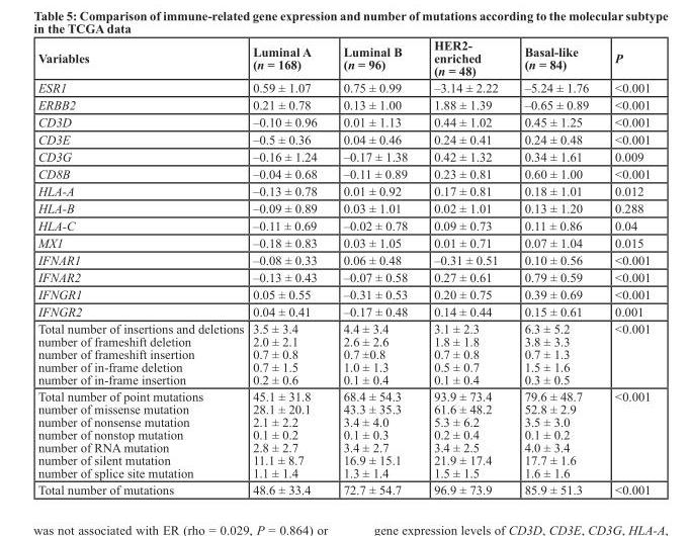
<table><thead><tr><td>Variables</td><td>Luminal A (n = 168)</td><td>Luminal B (n = 96)</td><td>HER2- enriched (n = 48)</td><td>Basal-like (n = 84)</td><td>P</td></tr></thead><tbody><tr><td>ESR1</td><td>0.59 ± 1.07</td><td>0.75 ± 0.99</td><td>–3.14 ± 2.22</td><td>–5.24 ± 1.76</td><td>&lt;0.001</td></tr><tr><td>ERBB2</td><td>0.21 ± 0.78</td><td>0.13 ± 1.00</td><td>1.88 ± 1.39</td><td>–0.65 ± 0.89</td><td>&lt;0.001</td></tr><tr><td>CD3D</td><td>–0.10 ± 0.96</td><td>0.01 ± 1.13</td><td>0.44 ± 1.02</td><td>0.45 ± 1.25</td><td>&lt;0.001</td></tr><tr><td>CD3E</td><td>–0.5 ± 0.36</td><td>0.04 ± 0.46</td><td>0.24 ± 0.41</td><td>0.24 ± 0.48</td><td>&lt;0.001</td></tr><tr><td>CD3G</td><td>–0.16 ± 1.24</td><td>–0.17 ± 1.38</td><td>0.42 ± 1.32</td><td>0.34 ± 1.61</td><td>0.009</td></tr><tr><td>CD8B</td><td>–0.04 ± 0.68</td><td>–0.11 ± 0.89</td><td>0.23 ± 0.81</td><td>0.60 ± 1.00</td><td>&lt;0.001</td></tr><tr><td>HLA-A</td><td>–0.13 ± 0.78</td><td>0.01 ± 0.92</td><td>0.17 ± 0.81</td><td>0.18 ± 1.01</td><td>0.012</td></tr><tr><td>HLA-B</td><td>–0.09 ± 0.89</td><td>0.03 ± 1.01</td><td>0.02 ± 1.01</td><td>0.13 ± 1.20</td><td>0.288</td></tr><tr><td>HLA-C</td><td>–0.11 ± 0.69</td><td>–0.02 ± 0.78</td><td>0.09 ± 0.73</td><td>0.11 ± 0.86</td><td>0.04</td></tr><tr><td>MX1</td><td>–0.18 ± 0.83</td><td>0.03 ± 1.05</td><td>0.01 ± 0.71</td><td>0.07 ± 1.04</td><td>0.015</td></tr><tr><td>IFNAR1</td><td>–0.08 ± 0.33</td><td>0.06 ± 0.48</td><td>–0.31 ± 0.51</td><td>0.10 ± 0.56</td><td>&lt;0.001</td></tr><tr><td>IFNAR2</td><td>–0.13 ± 0.43</td><td>–0.07 ± 0.58</td><td>0.27 ± 0.61</td><td>0.79 ± 0.59</td><td>&lt;0.001</td></tr><tr><td>IFNGR1</td><td>0.05 ± 0.55</td><td>–0.31 ± 0.53</td><td>0.20 ± 0.75</td><td>0.39 ± 0.69</td><td>&lt;0.001</td></tr><tr><td>IFNGR2</td><td>0.04 ± 0.41</td><td>–0.17 ± 0.48</td><td>0.14 ± 0.44</td><td>0.15 ± 0.61</td><td>0.001</td></tr><tr><td>Total number of insertions and deletions number of frameshift deletion number of frameshift insertion number of in-frame deletion number of in-frame insertion</td><td>3.5 ± 3.4 2.0 ± 2.1 0.7 ± 0.8 0.7 ± 1.5 0.2 ± 0.6</td><td>4.4 ± 3.4 2.6 ± 2.6 0.7 ±0.8 1.0 ± 1.3 0.1 ± 0.4</td><td>3.1 ± 2.3 1.8 ± 1.8 0.7 ± 0.8 0.5 ± 0.7 0.1 ± 0.4</td><td>6.3 ± 5.2 3.8 ± 3.3 0.7 ± 1.3 1.5 ± 1.6 0.3 ± 0.5</td><td>&lt;0.001</td></tr><tr><td>Total number of point mutations number of missense mutation number of nonsense mutation number of nonstop mutation number of RNA mutation number of silent mutation number of splice site mutation</td><td>45.1 ± 31.8 28.1 ± 20.1 2.1 ± 2.2 0.1 ± 0.2 2.8 ± 2.7 11.1 ± 8.7 1.1 ± 1.4</td><td>68.4 ± 54.3 43.3 ± 35.3 3.4 ± 4.0 0.1 ± 0.3 3.4 ± 2.7 16.9 ± 15.1 1.3 ± 1.4</td><td>93.9 ± 73.4 61.6 ± 48.2 5.3 ± 6.2 0.2 ± 0.4 3.4 ± 2.5 21.9 ± 17.4 1.5 ± 1.5</td><td>79.6 ± 48.7 52.8 ± 2.9 3.5 ± 3.0 0.1 ± 0.2 4.0 ± 3.4 17.7 ± 1.6 1.6 ± 1.6</td><td>&lt;0.001</td></tr><tr><td>Total number of mutations</td><td>48.6 ± 33.4</td><td>72.7 ± 54.7</td><td>96.9 ± 73.9</td><td>85.9 ± 51.3</td><td>&lt;0.001</td></tr></tbody></table>